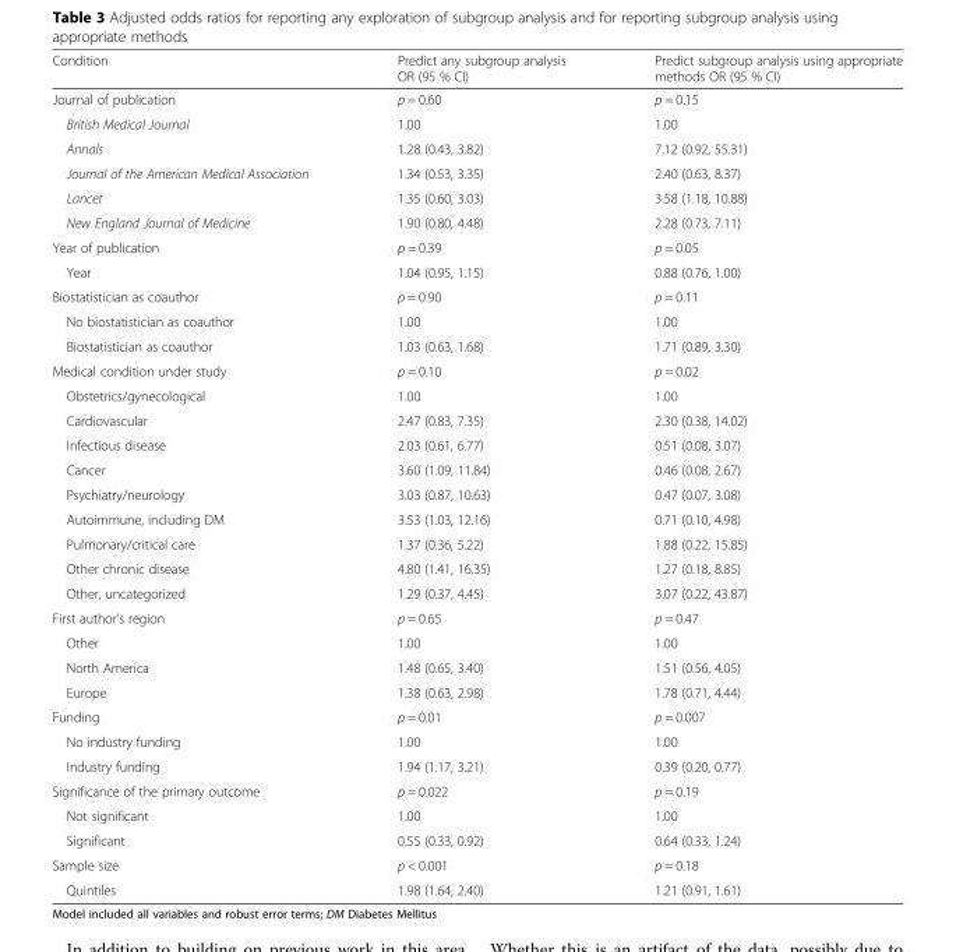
<table><thead><tr><td>Condition</td><td>Predict any subgroup analysis OR (95 % CI)</td><td>Predict subgroup analysis using appropriate methods OR (95 % CI)</td></tr></thead><tbody><tr><td>Journal of publication</td><td>p = 0.60</td><td>p = 0.15</td></tr><tr><td>British Medical Journal</td><td>1.00</td><td>1.00</td></tr><tr><td>Annals</td><td>1.28 (0.43, 3.82)</td><td>7.12 (0.92, 55.31)</td></tr><tr><td>Journal of the American Medical Association</td><td>1.34 (0.53, 3.35)</td><td>2.40 (0.63, 8.37)</td></tr><tr><td>Lancet</td><td>1.35 (0.60, 3.03)</td><td>3.58 (1.18, 10.88)</td></tr><tr><td>New England Journal of Medicine</td><td>1.90 (0.80, 4.48)</td><td>2.28 (0.73, 7.11)</td></tr><tr><td>Year of publication</td><td>p = 0.39</td><td>p = 0.05</td></tr><tr><td>Year</td><td>1.04 (0.95, 1.15)</td><td>0.88 (0.76, 1.00)</td></tr><tr><td>Biostatistician as coauthor</td><td>p = 0.90</td><td>p = 0.11</td></tr><tr><td>No biostatistician as coauthor</td><td>1.00</td><td>1.00</td></tr><tr><td>Biostatistician as coauthor</td><td>1.03 (0.63, 1.68)</td><td>1.71 (0.89, 3.30)</td></tr><tr><td>Medical condition under study</td><td>p = 0.10</td><td>p = 0.02</td></tr><tr><td>Obstetrics/gynecological</td><td>1.00</td><td>1.00</td></tr><tr><td>Cardiovascular</td><td>2.47 (0.83, 7.35)</td><td>2.30 (0.38, 14.02)</td></tr><tr><td>Infectious disease</td><td>2.03 (0.61, 6.77)</td><td>0.51 (0.08, 3.07)</td></tr><tr><td>Cancer</td><td>3.60 (1.09, 11.84)</td><td>0.46 (0.08, 2.67)</td></tr><tr><td>Psychiatry/neurology</td><td>3.03 (0.87, 10.63)</td><td>0.47 (0.07, 3.08)</td></tr><tr><td>Autoimmune, including DM</td><td>3.53 (1.03, 12.16)</td><td>0.71 (0.10, 4.98)</td></tr><tr><td>Pulmonary/critical care</td><td>1.37 (0.36, 5.22)</td><td>1.88 (0.22, 15.85)</td></tr><tr><td>Other chronic disease</td><td>4.80 (1.41, 16.35)</td><td>1.27 (0.18, 8.85)</td></tr><tr><td>Other, uncategorized</td><td>1.29 (0.37, 4.45)</td><td>3.07 (0.22, 43.87)</td></tr><tr><td>First author’s region</td><td>p = 0.65</td><td>p = 0.47</td></tr><tr><td>Other</td><td>1.00</td><td>1.00</td></tr><tr><td>North America</td><td>1.48 (0.65, 3.40)</td><td>1.51 (0.56, 4.05)</td></tr><tr><td>Europe</td><td>1.38 (0.63, 2.98)</td><td>1.78 (0.71, 4.44)</td></tr><tr><td>Funding</td><td>p = 0.01</td><td>p = 0.007</td></tr><tr><td>No industry funding</td><td>1.00</td><td>1.00</td></tr><tr><td>Industry funding</td><td>1.94 (1.17, 3.21)</td><td>0.39 (0.20, 0.77)</td></tr><tr><td>Significance of the primary outcome</td><td>p = 0.022</td><td>p = 0.19</td></tr><tr><td>Not significant</td><td>1.00</td><td>1.00</td></tr><tr><td>Significant</td><td>0.55 (0.33, 0.92)</td><td>0.64 (0.33, 1.24)</td></tr><tr><td>Sample size</td><td>p &lt; 0.001</td><td>p = 0.18</td></tr><tr><td>Quintiles</td><td>1.98 (1.64, 2.40)</td><td>1.21 (0.91, 1.61)</td></tr></tbody></table>